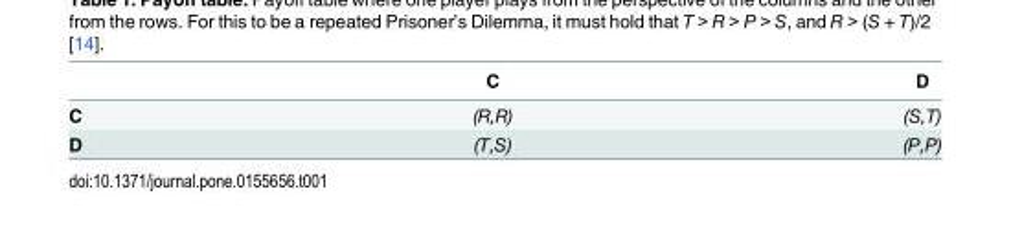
<table><thead><tr><td></td><td>C</td><td>D</td></tr></thead><tbody><tr><td>C</td><td>(R,R)</td><td>(S,T)</td></tr><tr><td>D</td><td>(T,S)</td><td>(P,P)</td></tr></tbody></table>